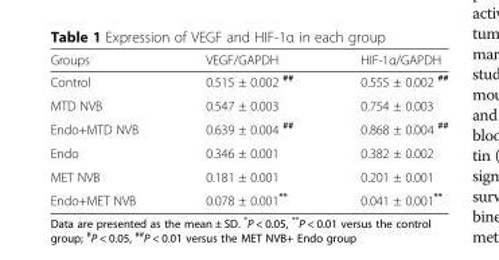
<table><thead><tr><td>Groups</td><td>VEGF/GAPDH</td><td>HIF-1α/GAPDH</td></tr></thead><tbody><tr><td>Control</td><td>0.515 ± 0.002 <sup>##</sup></td><td>0.555 ± 0.002 <sup>##</sup></td></tr><tr><td>MTD NVB</td><td>0.547 ± 0.003</td><td>0.754 ± 0.003</td></tr><tr><td>Endo+MTD NVB</td><td>0.639 ± 0.004 <sup>##</sup></td><td>0.868 ± 0.004 <sup>##</sup></td></tr><tr><td>Endo</td><td>0.346 ± 0.001</td><td>0.382 ± 0.002</td></tr><tr><td>MET NVB</td><td>0.181 ± 0.001</td><td>0.201 ± 0.001</td></tr><tr><td>Endo+MET NVB</td><td>0.078 ± 0.001**</td><td>0.041 ± 0.001**</td></tr></tbody></table>